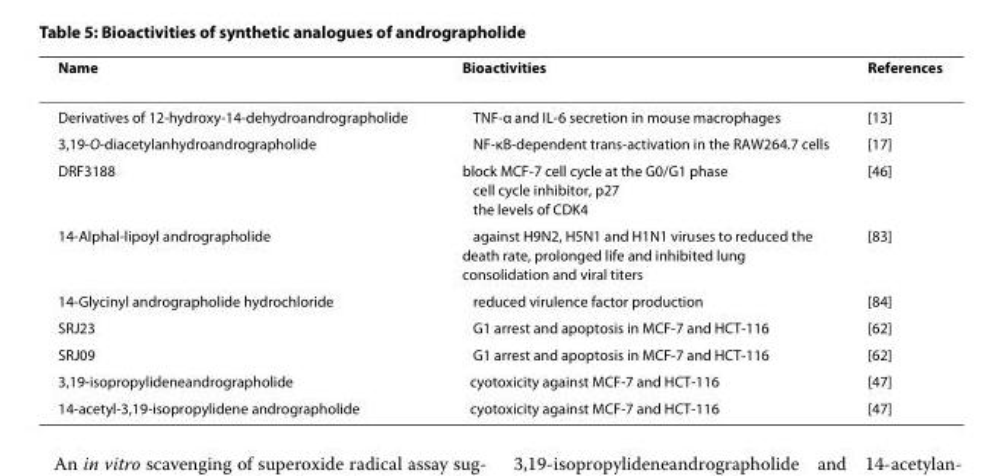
<table><thead><tr><td>Name</td><td>Bioactivities</td><td>References</td></tr></thead><tbody><tr><td>Derivatives of 12-hydroxy-14-dehydroandrographolide</td><td>↓ TNF-α and IL-6 secretion in mouse macrophages</td><td>[13]</td></tr><tr><td>3,19-O-diacetylanhydroandrographolide</td><td>↓ NF-κB-dependent trans-activation in the RAW264.7 cells</td><td>[17]</td></tr><tr><td>DRF3188</td><td>block MCF-7 cell cycle at the G0/G1 phase ↑ cell cycle inhibitor, p27 ↓ the levels of CDK4</td><td>[46]</td></tr><tr><td>14-Alphal-lipoyl andrographolide</td><td>↑ against H9N2, H5N1 and H1N1 viruses to reduced the death rate, prolonged life and inhibited lung consolidation and viral titers</td><td>[83]</td></tr><tr><td>14-Glycinyl andrographolide hydrochloride</td><td>↓ reduced virulence factor production</td><td>[84]</td></tr><tr><td>SRJ23</td><td>↑ G1 arrest and apoptosis in MCF-7 and HCT-116</td><td>[62]</td></tr><tr><td>SRJ09</td><td>↑ G1 arrest and apoptosis in MCF-7 and HCT-116</td><td>[62]</td></tr><tr><td>3,19-isopropylideneandrographolide</td><td>↑cyotoxicity against MCF-7 and HCT-116</td><td>[47]</td></tr><tr><td>14-acetyl-3,19-isopropylidene andrographolide</td><td>↑cyotoxicity against MCF-7 and HCT-116</td><td>[47]</td></tr></tbody></table>